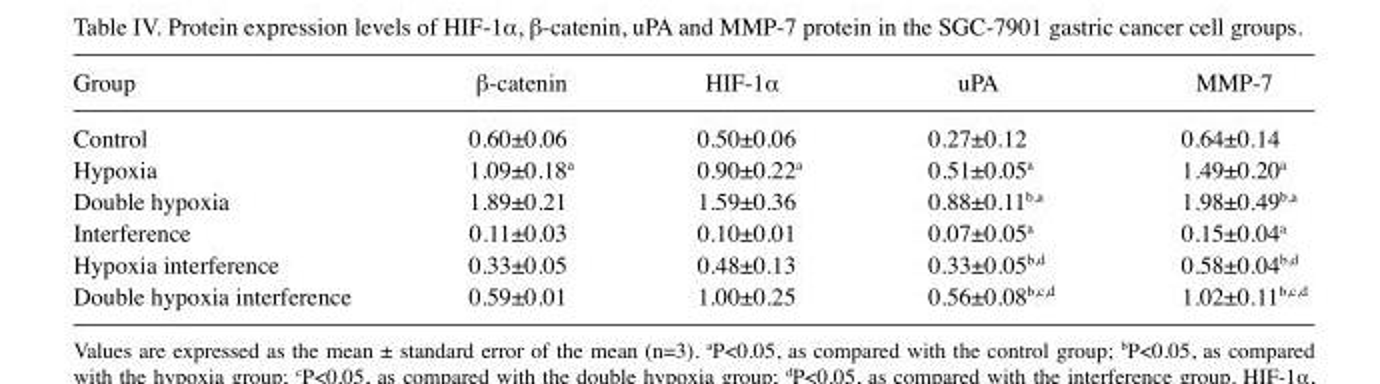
<table><thead><tr><td>Group</td><td>β-catenin</td><td>HIF-1α</td><td>uPA</td><td>MMP-7</td></tr></thead><tbody><tr><td>Control</td><td>0.60±0.06</td><td>0.50±0.06</td><td>0.27±0.12</td><td>0.64±0.14</td></tr><tr><td>Hypoxia</td><td>1.09±0.18<sup>a</sup></td><td>0.90±0.22<sup>a</sup></td><td>0.51±0.05<sup>a</sup></td><td>1.49±0.20<sup>a</sup></td></tr><tr><td>Double hypoxia</td><td>1.89±0.21</td><td>1.59±0.36</td><td>0.88±0.11<sup>b</sup>,<sup>a</sup></td><td>1.98±0.49<sup>b</sup>,<sup>a</sup></td></tr><tr><td>Interference</td><td>0.11±0.03</td><td>0.10±0.01</td><td>0.07±0.05<sup>a</sup></td><td>0.15±0.04<sup>a</sup></td></tr><tr><td>Hypoxia interference</td><td>0.33±0.05</td><td>0.48±0.13</td><td>0.33±0.05<sup>b</sup>,<sup>d</sup></td><td>0.58±0.04<sup>b</sup>,<sup>d</sup></td></tr><tr><td>Double hypoxia interference</td><td>0.59±0.01</td><td>1.00±0.25</td><td>0.56±0.08<sup>b</sup>,<sup>c</sup>,<sup>d</sup></td><td>1.02±0.11<sup>b</sup>,<sup>c</sup>,<sup>d</sup></td></tr></tbody></table>